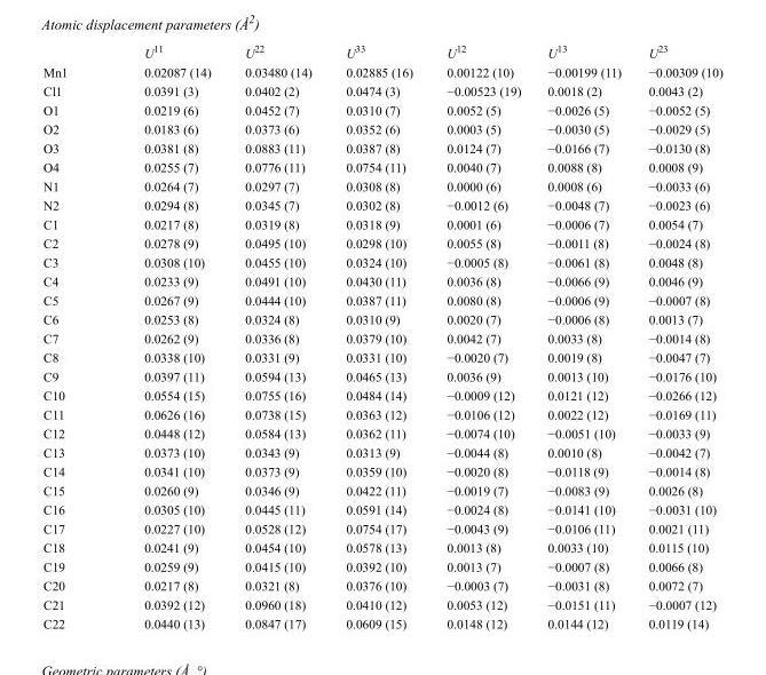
<table><thead><tr><td></td><td>U<sup>11</sup></td><td>U<sup>22</sup></td><td>U<sup>33</sup></td><td>U<sup>12</sup></td><td>U<sup>13</sup></td><td>U<sup>23</sup></td></tr></thead><tbody><tr><td>Mn1</td><td>0.02087 (14)</td><td>0.03480 (14)</td><td>0.02885 (16)</td><td>0.00122 (10)</td><td>−0.00199 (11)</td><td>−0.00309 (10)</td></tr><tr><td>Cl1</td><td>0.0391 (3)</td><td>0.0402 (2)</td><td>0.0474 (3)</td><td>−0.00523 (19)</td><td>0.0018 (2)</td><td>0.0043 (2)</td></tr><tr><td>O1</td><td>0.0219 (6)</td><td>0.0452 (7)</td><td>0.0310 (7)</td><td>0.0052 (5)</td><td>−0.0026 (5)</td><td>−0.0052 (5)</td></tr><tr><td>O2</td><td>0.0183 (6)</td><td>0.0373 (6)</td><td>0.0352 (6)</td><td>0.0003 (5)</td><td>−0.0030 (5)</td><td>−0.0029 (5)</td></tr><tr><td>O3</td><td>0.0381 (8)</td><td>0.0883 (11)</td><td>0.0387 (8)</td><td>0.0124 (7)</td><td>−0.0166 (7)</td><td>−0.0130 (8)</td></tr><tr><td>O4</td><td>0.0255 (7)</td><td>0.0776 (11)</td><td>0.0754 (11)</td><td>0.0040 (7)</td><td>0.0088 (8)</td><td>0.0008 (9)</td></tr><tr><td>N1</td><td>0.0264 (7)</td><td>0.0297 (7)</td><td>0.0308 (8)</td><td>0.0000 (6)</td><td>0.0008 (6)</td><td>−0.0033 (6)</td></tr><tr><td>N2</td><td>0.0294 (8)</td><td>0.0345 (7)</td><td>0.0302 (8)</td><td>−0.0012 (6)</td><td>−0.0048 (7)</td><td>−0.0023 (6)</td></tr><tr><td>C1</td><td>0.0217 (8)</td><td>0.0319 (8)</td><td>0.0318 (9)</td><td>0.0001 (6)</td><td>−0.0006 (7)</td><td>0.0054 (7)</td></tr><tr><td>C2</td><td>0.0278 (9)</td><td>0.0495 (10)</td><td>0.0298 (10)</td><td>0.0055 (8)</td><td>−0.0011 (8)</td><td>−0.0024 (8)</td></tr><tr><td>C3</td><td>0.0308 (10)</td><td>0.0455 (10)</td><td>0.0324 (10)</td><td>−0.0005 (8)</td><td>−0.0061 (8)</td><td>0.0048 (8)</td></tr><tr><td>C4</td><td>0.0233 (9)</td><td>0.0491 (10)</td><td>0.0430 (11)</td><td>0.0036 (8)</td><td>−0.0066 (9)</td><td>0.0046 (9)</td></tr><tr><td>C5</td><td>0.0267 (9)</td><td>0.0444 (10)</td><td>0.0387 (11)</td><td>0.0080 (8)</td><td>−0.0006 (9)</td><td>−0.0007 (8)</td></tr><tr><td>C6</td><td>0.0253 (8)</td><td>0.0324 (8)</td><td>0.0310 (9)</td><td>0.0020 (7)</td><td>−0.0006 (8)</td><td>0.0013 (7)</td></tr><tr><td>C7</td><td>0.0262 (9)</td><td>0.0336 (8)</td><td>0.0379 (10)</td><td>0.0042 (7)</td><td>0.0033 (8)</td><td>−0.0014 (8)</td></tr><tr><td>C8</td><td>0.0338 (10)</td><td>0.0331 (9)</td><td>0.0331 (10)</td><td>−0.0020 (7)</td><td>0.0019 (8)</td><td>−0.0047 (7)</td></tr><tr><td>C9</td><td>0.0397 (11)</td><td>0.0594 (13)</td><td>0.0465 (13)</td><td>0.0036 (9)</td><td>0.0013 (10)</td><td>−0.0176 (10)</td></tr><tr><td>C10</td><td>0.0554 (15)</td><td>0.0755 (16)</td><td>0.0484 (14)</td><td>−0.0009 (12)</td><td>0.0121 (12)</td><td>−0.0266 (12)</td></tr><tr><td>C11</td><td>0.0626 (16)</td><td>0.0738 (15)</td><td>0.0363 (12)</td><td>−0.0106 (12)</td><td>0.0022 (12)</td><td>−0.0169 (11)</td></tr><tr><td>C12</td><td>0.0448 (12)</td><td>0.0584 (13)</td><td>0.0362 (11)</td><td>−0.0074 (10)</td><td>−0.0051 (10)</td><td>−0.0033 (9)</td></tr><tr><td>C13</td><td>0.0373 (10)</td><td>0.0343 (9)</td><td>0.0313 (9)</td><td>−0.0044 (8)</td><td>0.0010 (8)</td><td>−0.0042 (7)</td></tr><tr><td>C14</td><td>0.0341 (10)</td><td>0.0373 (9)</td><td>0.0359 (10)</td><td>−0.0020 (8)</td><td>−0.0118 (9)</td><td>−0.0014 (8)</td></tr><tr><td>C15</td><td>0.0260 (9)</td><td>0.0346 (9)</td><td>0.0422 (11)</td><td>−0.0019 (7)</td><td>−0.0083 (9)</td><td>0.0026 (8)</td></tr><tr><td>C16</td><td>0.0305 (10)</td><td>0.0445 (11)</td><td>0.0591 (14)</td><td>−0.0024 (8)</td><td>−0.0141 (10)</td><td>−0.0031 (10)</td></tr><tr><td>C17</td><td>0.0227 (10)</td><td>0.0528 (12)</td><td>0.0754 (17)</td><td>−0.0043 (9)</td><td>−0.0106 (11)</td><td>0.0021 (11)</td></tr><tr><td>C18</td><td>0.0241 (9)</td><td>0.0454 (10)</td><td>0.0578 (13)</td><td>0.0013 (8)</td><td>0.0033 (10)</td><td>0.0115 (10)</td></tr><tr><td>C19</td><td>0.0259 (9)</td><td>0.0415 (10)</td><td>0.0392 (10)</td><td>0.0013 (7)</td><td>−0.0007 (8)</td><td>0.0066 (8)</td></tr><tr><td>C20</td><td>0.0217 (8)</td><td>0.0321 (8)</td><td>0.0376 (10)</td><td>−0.0003 (7)</td><td>−0.0031 (8)</td><td>0.0072 (7)</td></tr><tr><td>C21</td><td>0.0392 (12)</td><td>0.0960 (18)</td><td>0.0410 (12)</td><td>0.0053 (12)</td><td>−0.0151 (11)</td><td>−0.0007 (12)</td></tr><tr><td>C22</td><td>0.0440 (13)</td><td>0.0847 (17)</td><td>0.0609 (15)</td><td>0.0148 (12)</td><td>0.0144 (12)</td><td>0.0119 (14)</td></tr></tbody></table>